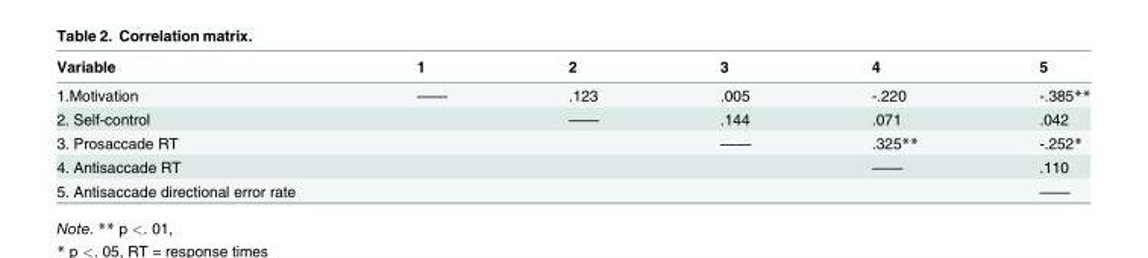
<table><thead><tr><td>Variable</td><td>1</td><td>2</td><td>3</td><td>4</td><td>5</td></tr></thead><tbody><tr><td>1.Motivation</td><td>——</td><td>.123</td><td>.005</td><td>-.220</td><td>-.385**</td></tr><tr><td>2. Self-control</td><td></td><td>——</td><td>.144</td><td>.071</td><td>.042</td></tr><tr><td>3. Prosaccade RT</td><td></td><td></td><td>——</td><td>.325**</td><td>-.252*</td></tr><tr><td>4. Antisaccade RT</td><td></td><td></td><td></td><td>——</td><td>.110</td></tr><tr><td>5. Antisaccade directional error rate</td><td></td><td></td><td></td><td></td><td>——</td></tr></tbody></table>